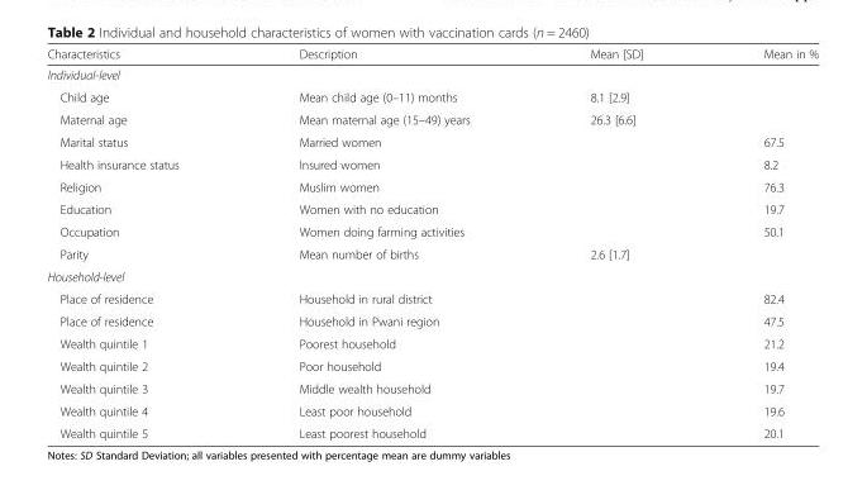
<table><thead><tr><td>Characteristics</td><td>Description</td><td>Mean [SD]</td><td>Mean in %</td></tr></thead><tbody><tr><td colspan="4">Individual-level</td></tr><tr><td>Child age</td><td>Mean child age (0–11) months</td><td>8.1 [2.9]</td><td></td></tr><tr><td>Maternal age</td><td>Mean maternal age (15–49) years</td><td>26.3 [6.6]</td><td></td></tr><tr><td>Marital status</td><td>Married women</td><td></td><td>67.5</td></tr><tr><td>Health insurance status</td><td>Insured women</td><td></td><td>8.2</td></tr><tr><td>Religion</td><td>Muslim women</td><td></td><td>76.3</td></tr><tr><td>Education</td><td>Women with no education</td><td></td><td>19.7</td></tr><tr><td>Occupation</td><td>Women doing farming activities</td><td></td><td>50.1</td></tr><tr><td>Parity</td><td>Mean number of births</td><td>2.6 [1.7]</td><td></td></tr><tr><td colspan="4">Household-level</td></tr><tr><td>Place of residence</td><td>Household in rural district</td><td></td><td>82.4</td></tr><tr><td>Place of residence</td><td>Household in Pwani region</td><td></td><td>47.5</td></tr><tr><td>Wealth quintile 1</td><td>Poorest household</td><td></td><td>21.2</td></tr><tr><td>Wealth quintile 2</td><td>Poor household</td><td></td><td>19.4</td></tr><tr><td>Wealth quintile 3</td><td>Middle wealth household</td><td></td><td>19.7</td></tr><tr><td>Wealth quintile 4</td><td>Least poor household</td><td></td><td>19.6</td></tr><tr><td>Wealth quintile 5</td><td>Least poorest household</td><td></td><td>20.1</td></tr></tbody></table>